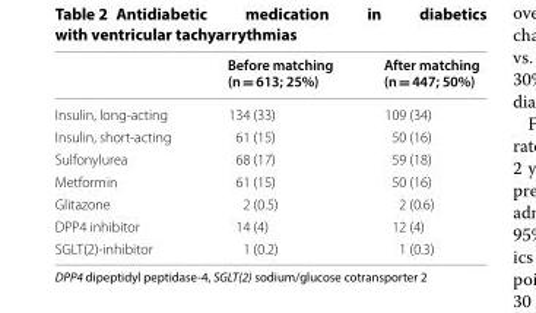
<table><thead><tr><td></td><td>Before matching (n = 613; 25%)</td><td>After matching (n = 447; 50%)</td></tr></thead><tbody><tr><td>Insulin, long‑acting</td><td>134 (33)</td><td>109 (34)</td></tr><tr><td>Insulin, short‑acting</td><td>61 (15)</td><td>50 (16)</td></tr><tr><td>Sulfonylurea</td><td>68 (17)</td><td>59 (18)</td></tr><tr><td>Metformin</td><td>61 (15)</td><td>50 (16)</td></tr><tr><td>Glitazone</td><td>2 (0.5)</td><td>2 (0.6)</td></tr><tr><td>DPP4 inhibitor</td><td>14 (4)</td><td>12 (4)</td></tr><tr><td>SGLT(2)‑inhibitor</td><td>1 (0.2)</td><td>1 (0.3)</td></tr></tbody></table>